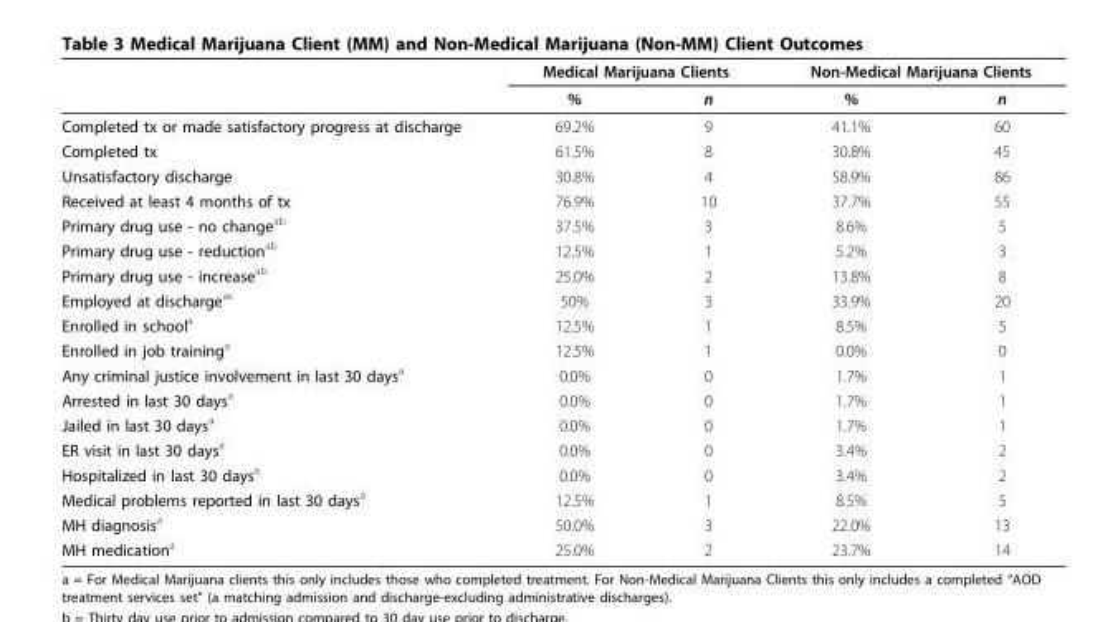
<table><thead><tr><td rowspan="2"></td><td colspan="2">Medical Marijuana Clients</td><td colspan="2">Non-Medical Marijuana Clients</td></tr><tr><td>%</td><td>n</td><td>%</td><td>n</td></tr></thead><tbody><tr><td>Completed tx or made satisfactory progress at discharge</td><td>69.2%</td><td>9</td><td>41.1%</td><td>60</td></tr><tr><td>Completed tx</td><td>61.5%</td><td>8</td><td>30.8%</td><td>45</td></tr><tr><td>Unsatisfactory discharge</td><td>30.8%</td><td>4</td><td>58.9%</td><td>86</td></tr><tr><td>Received at least 4 months of tx</td><td>76.9%</td><td>10</td><td>37.7%</td><td>55</td></tr><tr><td>Primary drug use - no change<sup>ab</sup></td><td>37.5%</td><td>3</td><td>8.6%</td><td>5</td></tr><tr><td>Primary drug use - reduction<sup>ab</sup></td><td>12.5%</td><td>1</td><td>5.2%</td><td>3</td></tr><tr><td>Primary drug use - increase<sup>ab</sup></td><td>25.0%</td><td>2</td><td>13.8%</td><td>8</td></tr><tr><td>Employed at discharge<sup>ac</sup></td><td>50%</td><td>3</td><td>33.9%</td><td>20</td></tr><tr><td>Enrolled in school<sup>a</sup></td><td>12.5%</td><td>1</td><td>8.5%</td><td>5</td></tr><tr><td>Enrolled in job training<sup>a</sup></td><td>12.5%</td><td>1</td><td>0.0%</td><td>0</td></tr><tr><td>Any criminal justice involvement in last 30 days<sup>a</sup></td><td>0.0%</td><td>0</td><td>1.7%</td><td>1</td></tr><tr><td>Arrested in last 30 days<sup>a</sup></td><td>0.0%</td><td>0</td><td>1.7%</td><td>1</td></tr><tr><td>Jailed in last 30 days<sup>a</sup></td><td>0.0%</td><td>0</td><td>1.7%</td><td>1</td></tr><tr><td>ER visit in last 30 days<sup>a</sup></td><td>0.0%</td><td>0</td><td>3.4%</td><td>2</td></tr><tr><td>Hospitalized in last 30 days<sup>a</sup></td><td>0.0%</td><td>0</td><td>3.4%</td><td>2</td></tr><tr><td>Medical problems reported in last 30 days<sup>a</sup></td><td>12.5%</td><td>1</td><td>8.5%</td><td>5</td></tr><tr><td>MH diagnosis<sup>a</sup></td><td>50.0%</td><td>3</td><td>22.0%</td><td>13</td></tr><tr><td>MH medication<sup>a</sup></td><td>25.0%</td><td>2</td><td>23.7%</td><td>14</td></tr></tbody></table>